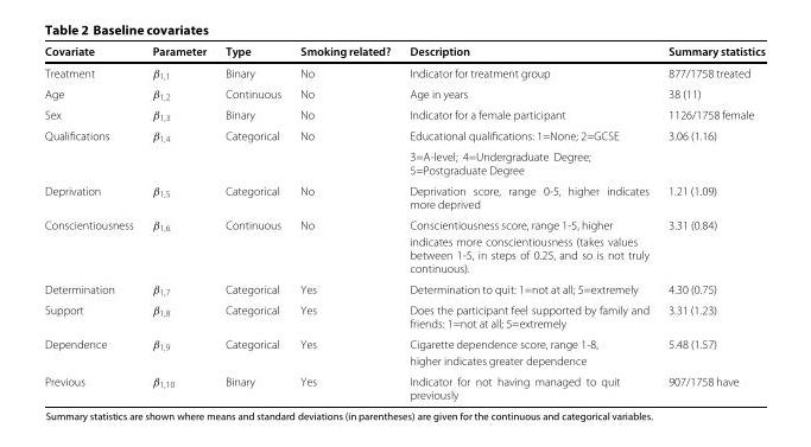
<table><thead><tr><td>Covariate</td><td>Parameter</td><td>Type</td><td>Smoking related?</td><td>Description</td><td>Summary statistics</td></tr></thead><tbody><tr><td>Treatment</td><td>β<sub>1,1</sub></td><td>Binary</td><td>No</td><td>Indicator for treatment group</td><td>877/1758 treated</td></tr><tr><td>Age</td><td>β<sub>1,2</sub></td><td>Continuous</td><td>No</td><td>Age in years</td><td>38 (11)</td></tr><tr><td>Sex</td><td>β<sub>1,3</sub></td><td>Binary</td><td>No</td><td>Indicator for a female participant</td><td>1126/1758 female</td></tr><tr><td rowspan="2">Qualifications</td><td>β<sub>1,4</sub></td><td>Categorical</td><td>No</td><td>Educational qualifications: 1=None; 2=GCSE</td><td>3.06 (1.16)</td></tr><tr><td></td><td></td><td></td><td>3=A-level; 4=Undergraduate Degree; 5=Postgraduate Degree</td><td></td></tr><tr><td>Deprivation</td><td>β<sub>1,5</sub></td><td>Categorical</td><td>No</td><td>Deprivation score, range 0-5, higher indicates more deprived</td><td>1.21 (1.09)</td></tr><tr><td rowspan="2">Conscientiousness</td><td>β<sub>1,6</sub></td><td>Continuous</td><td>No</td><td>Conscientiousness score, range 1-5, higher</td><td>3.31 (0.84)</td></tr><tr><td></td><td></td><td></td><td>indicates more conscientiousness (takes values between 1-5, in steps of 0.25, and so is not truly continuous).</td><td></td></tr><tr><td>Determination</td><td>β<sub>1,7</sub></td><td>Categorical</td><td>Yes</td><td>Determination to quit: 1=not at all; 5=extremely</td><td>4.30 (0.75)</td></tr><tr><td>Support</td><td>β<sub>1,8</sub></td><td>Categorical</td><td>Yes</td><td>Does the participant feel supported by family and friends: 1=not at all; 5=extremely</td><td>3.31 (1.23)</td></tr><tr><td rowspan="2">Dependence</td><td>β<sub>1,9</sub></td><td>Categorical</td><td>Yes</td><td>Cigarette dependence score, range 1-8,</td><td>5.48 (1.57)</td></tr><tr><td></td><td></td><td></td><td>higher indicates greater dependence</td><td></td></tr><tr><td>Previous</td><td>β<sub>1,10</sub></td><td>Binary</td><td>Yes</td><td>Indicator for not having managed to quit previously</td><td>907/1758 have</td></tr></tbody></table>